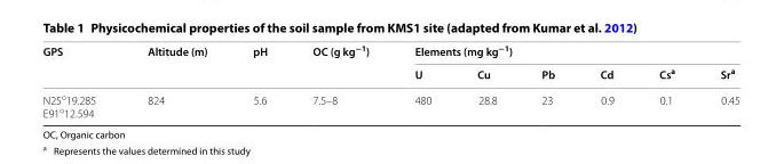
<table><thead><tr><td rowspan="2">GPS</td><td rowspan="2">Altitude (m)</td><td rowspan="2">pH</td><td rowspan="2">OC (g kg<sup>−1</sup>)</td><td colspan="6">Elements (mg kg<sup>−1</sup>)</td></tr><tr><td>U</td><td>Cu</td><td>Pb</td><td>Cd</td><td>Cs<sup>a</sup></td><td>Sr<sup>a</sup></td></tr></thead><tbody><tr><td>N25<sup>o</sup>19.285 E91<sup>o</sup>12.594</td><td>824</td><td>5.6</td><td>7.5–8</td><td>480</td><td>28.8</td><td>23</td><td>0.9</td><td>0.1</td><td>0.45</td></tr></tbody></table>